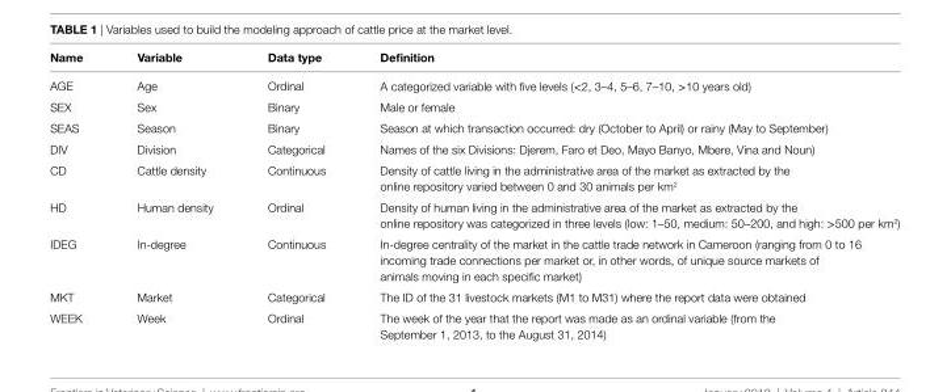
<table><thead><tr><td>name</td><td>Variable</td><td>Data type</td><td>Definition</td></tr></thead><tbody><tr><td>AGE</td><td>Age</td><td>Ordinal</td><td>A categorized variable with five levels (&lt;2, 3–4, 5–6, 7–10, &gt;10 years old)</td></tr><tr><td>SEX</td><td>Sex</td><td>Binary</td><td>Male or female</td></tr><tr><td>SEAS</td><td>Season</td><td>Binary</td><td>Season at which transaction occurred: dry (October to April) or rainy (May to September)</td></tr><tr><td>DIV</td><td>Division</td><td>Categorical</td><td>Names of the six Divisions: Djerem, Faro et Deo, Mayo Banyo, Mbere, Vina and Noun)</td></tr><tr><td>CD</td><td>Cattle density</td><td>Continuous</td><td>Density of cattle living in the administrative area of the market as extracted by the online repository varied between 0 and 30 animals per km<sup>2</sup></td></tr><tr><td>HD</td><td>Human density</td><td>Ordinal</td><td>Density of human living in the administrative area of the market as extracted by the online repository was categorized in three levels (low: 1–50, medium: 50–200, and high: &gt;500 per km<sup>2</sup>)</td></tr><tr><td>IDEG</td><td>In-degree</td><td>Continuous</td><td>In-degree centrality of the market in the cattle trade network in Cameroon (ranging from 0 to 16 incoming trade connections per market or, in other words, of unique source markets of animals moving in each specific market)</td></tr><tr><td>MKT</td><td>Market</td><td>Categorical</td><td>The ID of the 31 livestock markets (M1 to M31) where the report data were obtained</td></tr><tr><td>WEEK</td><td>Week</td><td>Ordinal</td><td>The week of the year that the report was made as an ordinal variable (from the September 1, 2013, to the August 31, 2014)</td></tr></tbody></table>